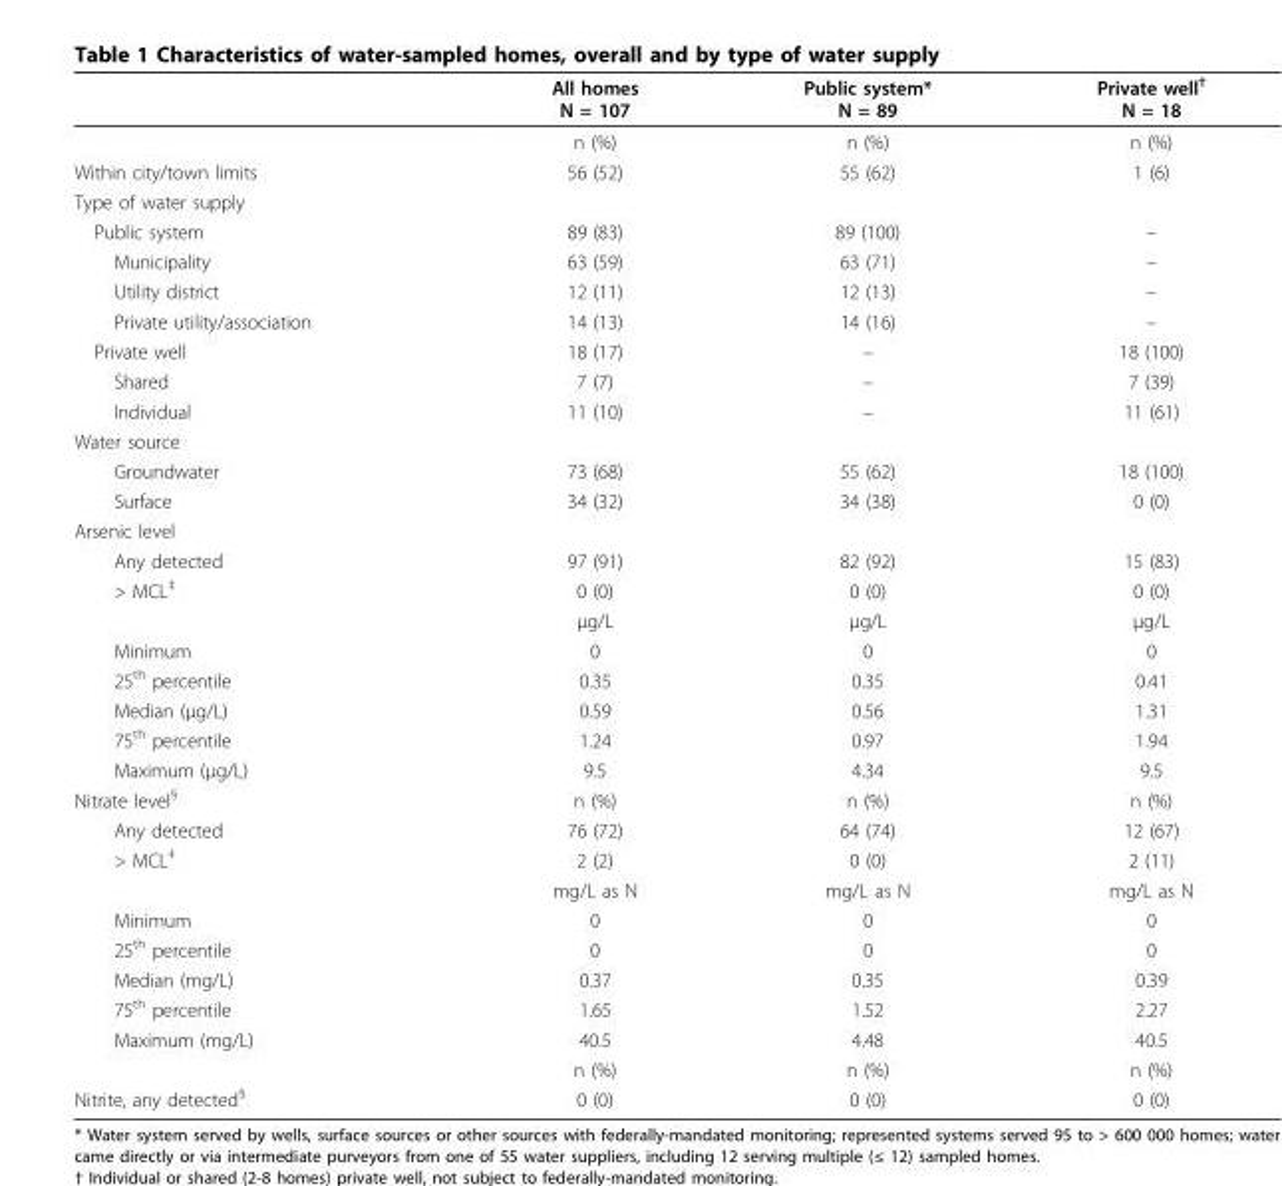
<table><thead><tr><td></td><td>All homes N = 107</td><td>Public system* N = 89</td><td>Private well<sup>†</sup> N = 18</td></tr></thead><tbody><tr><td></td><td>n (%)</td><td>n (%)</td><td>n (%)</td></tr><tr><td>Within city/town limits</td><td>56 (52)</td><td>55 (62)</td><td>1 (6)</td></tr><tr><td colspan="4">Type of water supply</td></tr><tr><td>Public system</td><td>89 (83)</td><td>89 (100)</td><td>–</td></tr><tr><td>Municipality</td><td>63 (59)</td><td>63 (71)</td><td>–</td></tr><tr><td>Utility district</td><td>12 (11)</td><td>12 (13)</td><td>–</td></tr><tr><td>Private utility/association</td><td>14 (13)</td><td>14 (16)</td><td>–</td></tr><tr><td>Private well</td><td>18 (17)</td><td>–</td><td>18 (100)</td></tr><tr><td>Shared</td><td>7 (7)</td><td>–</td><td>7 (39)</td></tr><tr><td>Individual</td><td>11 (10)</td><td>–</td><td>11 (61)</td></tr><tr><td colspan="4">Water source</td></tr><tr><td>Groundwater</td><td>73 (68)</td><td>55 (62)</td><td>18 (100)</td></tr><tr><td>Surface</td><td>34 (32)</td><td>34 (38)</td><td>0 (0)</td></tr><tr><td colspan="4">Arsenic level</td></tr><tr><td>Any detected</td><td>97 (91)</td><td>82 (92)</td><td>15 (83)</td></tr><tr><td rowspan="2">&gt; MCL<sup>‡</sup></td><td>0 (0)</td><td>0 (0)</td><td>0 (0)</td></tr><tr><td>μg/L</td><td>μg/L</td><td>μg/L</td></tr><tr><td>Minimum</td><td>0</td><td>0</td><td>0</td></tr><tr><td>25<sup>th</sup> percentile</td><td>0.35</td><td>0.35</td><td>0.41</td></tr><tr><td>Median (μg/L)</td><td>0.59</td><td>0.56</td><td>1.31</td></tr><tr><td>75<sup>th</sup> percentile</td><td>1.24</td><td>0.97</td><td>1.94</td></tr><tr><td>Maximum (μg/L)</td><td>9.5</td><td>4.34</td><td>9.5</td></tr><tr><td>Nitrate level<sup>§</sup></td><td>n (%)</td><td>n (%)</td><td>n (%)</td></tr><tr><td>Any detected</td><td>76 (72)</td><td>64 (74)</td><td>12 (67)</td></tr><tr><td rowspan="2">&gt; MCL<sup>‡</sup></td><td>2 (2)</td><td>0 (0)</td><td>2 (11)</td></tr><tr><td>mg/L as N</td><td>mg/L as N</td><td>mg/L as N</td></tr><tr><td>Minimum</td><td>0</td><td>0</td><td>0</td></tr><tr><td>25<sup>th</sup> percentile</td><td>0</td><td>0</td><td>0</td></tr><tr><td>Median (mg/L)</td><td>0.37</td><td>0.35</td><td>0.39</td></tr><tr><td>75<sup>th</sup> percentile</td><td>1.65</td><td>1.52</td><td>2.27</td></tr><tr><td rowspan="2">Maximum (mg/L)</td><td>40.5</td><td>4.48</td><td>40.5</td></tr><tr><td>n (%)</td><td>n (%)</td><td>n (%)</td></tr><tr><td>Nitrite, any detected<sup>§</sup></td><td>0 (0)</td><td>0 (0)</td><td>0 (0)</td></tr></tbody></table>